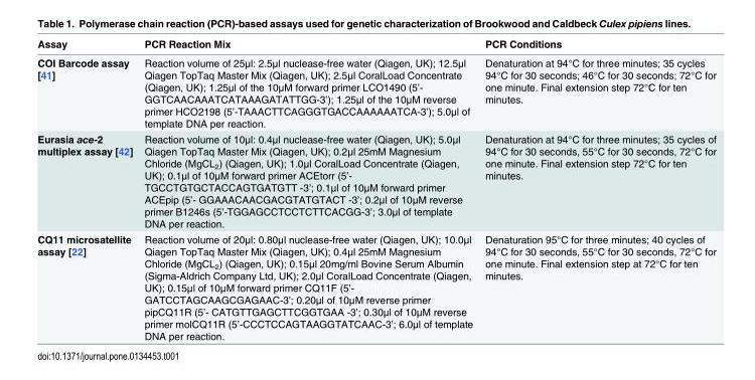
<table><thead><tr><td>Assay</td><td>PCR Reaction Mix</td><td>PCR Conditions</td></tr></thead><tbody><tr><td>COI Barcode assay [41]</td><td>Reaction volume of 25μl: 2.5μl nuclease-free water (Qiagen, UK); 12.5μl Qiagen TopTaq Master Mix (Qiagen, UK); 2.5μl CoralLoad Concentrate (Qiagen, UK); 1.25μl of the 10μM forward primer LCO1490 (5’- GGTCAACAAATCATAAAGATATTGG-3’); 1.25μl of the 10μM reverse primer HCO2198 (5’-TAAACTTCAGGGTGACCAAAAAATCA-3’); 5.0μl of template DNA per reaction.</td><td>Denaturation at 94°C for three minutes; 35 cycles 94°C for 30 seconds; 46°C for 30 seconds; 72°C for one minute. Final extension step 72°C for ten minutes.</td></tr><tr><td>Eurasia ace-2 multiplex assay [42]</td><td>Reaction volume of 10μl: 0.4μl nuclease-free water (Qiagen, UK); 5.0μl Qiagen TopTaq Master Mix (Qiagen, UK); 0.2μl 25mM Magnesium Chloride (MgCL<sub>2</sub>) (Qiagen, UK); 1.0μl CoralLoad Concentrate (Qiagen, UK); 0.1μl of 10μM forward primer ACEtorr (5’- TGCCTGTGCTACCAGTGATGTT -3’; 0.1μl of 10μM forward primer ACEpip (5’- GGAAACAACGACGTATGTACT -3’; 0.2μl of 10μM reverse primer B1246s (5’-TGGAGCCTCCTCTTCACGG-3’; 3.0μl of template DNA per reaction.</td><td>Denaturation at 94°C for three minutes; 35 cycles of 94°C for 30 seconds, 55°C for 30 seconds, 72°C for one minute. Final extension step 72°C for ten minutes.</td></tr><tr><td>CQ11 microsatellite assay [22]</td><td>Reaction volume of 20μl: 0.80μl nuclease-free water (Qiagen, UK); 10.0μl Qiagen TopTaq Master Mix (Qiagen, UK); 0.4μl 25mM Magnesium Chloride (MgCL<sub>2</sub>) (Qiagen, UK); 0.15μl 20mg/ml Bovine Serum Albumin (Sigma-Aldrich Company Ltd, UK); 2.0μl CoralLoad Concentrate (Qiagen, UK); 0.15μl of 10μM forward primer CQ11F (5’- GATCCTAGCAAGCGAGAAC-3’; 0.20μl of 10μM reverse primer pipCQ11R (5’- CATGTTGAGCTTCGGTGAA -3’; 0.30μl of 10μM reverse primer molCQ11R (5’-CCCTCCAGTAAGGTATCAAC-3’; 6.0μl of template DNA per reaction.</td><td>Denaturation 95°C for three minutes; 40 cycles of 94°C for 30 seconds, 55°C for 30 seconds, 72°C for one minute. Final extension step at 72°C for ten minutes.</td></tr></tbody></table>